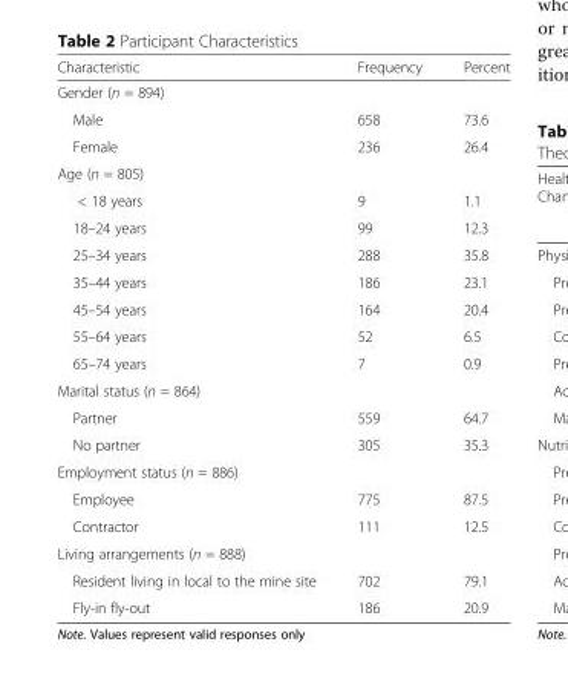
<table><thead><tr><td>Characteristic</td><td>Frequency</td><td>Percent</td></tr></thead><tbody><tr><td colspan="3">Gender (n = 894)</td></tr><tr><td>Male</td><td>658</td><td>73.6</td></tr><tr><td>Female</td><td>236</td><td>26.4</td></tr><tr><td colspan="3">Age (n = 805)</td></tr><tr><td>&lt; 18 years</td><td>9</td><td>1.1</td></tr><tr><td>18–24 years</td><td>99</td><td>12.3</td></tr><tr><td>25–34 years</td><td>288</td><td>35.8</td></tr><tr><td>35–44 years</td><td>186</td><td>23.1</td></tr><tr><td>45–54 years</td><td>164</td><td>20.4</td></tr><tr><td>55–64 years</td><td>52</td><td>6.5</td></tr><tr><td>65–74 years</td><td>7</td><td>0.9</td></tr><tr><td colspan="3">Marital status (n = 864)</td></tr><tr><td>Partner</td><td>559</td><td>64.7</td></tr><tr><td>No partner</td><td>305</td><td>35.3</td></tr><tr><td colspan="3">Employment status (n = 886)</td></tr><tr><td>Employee</td><td>775</td><td>87.5</td></tr><tr><td>Contractor</td><td>111</td><td>12.5</td></tr><tr><td colspan="3">Living arrangements (n = 888)</td></tr><tr><td>Resident living in local to the mine site</td><td>702</td><td>79.1</td></tr><tr><td>Fly-in fly-out</td><td>186</td><td>20.9</td></tr></tbody></table>